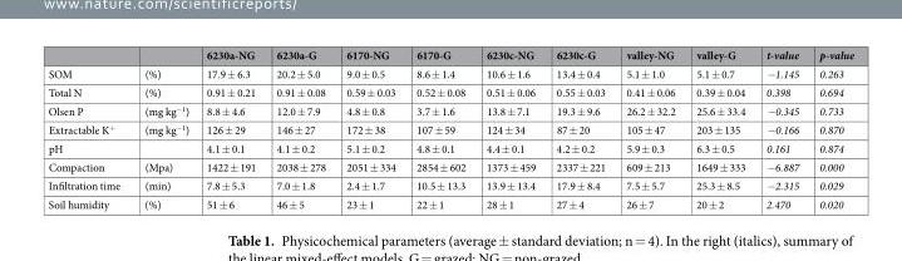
<table><thead><tr><td></td><td></td><td>6230a-NG</td><td>6230a-G</td><td>6170-NG</td><td>6170-G</td><td>6230c-NG</td><td>6230c-G</td><td>valley-NG</td><td>valley-G</td><td>t-value</td><td>p-value</td></tr></thead><tbody><tr><td>SOM</td><td>(%)</td><td>17.9 ± 6.3</td><td>20.2 ± 5.0</td><td>9.0 ± 0.5</td><td>8.6 ± 1.4</td><td>10.6 ± 1.6</td><td>13.4 ± 0.4</td><td>5.1 ± 1.0</td><td>5.1 ± 0.7</td><td>−1.145</td><td>0.263</td></tr><tr><td>Total N</td><td>(%)</td><td>0.91 ± 0.21</td><td>0.91 ± 0.08</td><td>0.59 ± 0.03</td><td>0.52 ± 0.08</td><td>0.51 ± 0.06</td><td>0.55 ± 0.03</td><td>0.41 ± 0.06</td><td>0.39 ± 0.04</td><td>0.398</td><td>0.694</td></tr><tr><td>Olsen P</td><td>(mg kg<sup>−1</sup>)</td><td>8.8 ± 4.6</td><td>12.0 ± 7.9</td><td>4.8 ± 0.8</td><td>3.7 ± 1.6</td><td>13.8 ± 7.1</td><td>19.3 ± 9.6</td><td>26.2 ± 32.2</td><td>25.6 ± 33.4</td><td>−0.345</td><td>0.733</td></tr><tr><td>Extractable K<sup>+</sup></td><td>(mg kg<sup>−1</sup>)</td><td>126 ± 29</td><td>146 ± 27</td><td>172 ± 38</td><td>107 ± 59</td><td>124 ± 34</td><td>87 ± 20</td><td>105 ± 47</td><td>203 ± 135</td><td>−0.166</td><td>0.870</td></tr><tr><td>pH</td><td></td><td>4.1 ± 0.1</td><td>4.1 ± 0.2</td><td>5.1 ± 0.2</td><td>4.8 ± 0.1</td><td>4.4 ± 0.1</td><td>4.2 ± 0.2</td><td>5.9 ± 0.3</td><td>6.3 ± 0.5</td><td>0.161</td><td>0.874</td></tr><tr><td>Compaction</td><td>(Mpa)</td><td>1422 ± 191</td><td>2038 ± 278</td><td>2051 ± 334</td><td>2854 ± 602</td><td>1373 ± 459</td><td>2337 ± 221</td><td>609 ± 213</td><td>1649 ± 333</td><td>−6.887</td><td>0.000</td></tr><tr><td>Infiltration time</td><td>(min)</td><td>7.8 ± 5.3</td><td>7.0 ± 1.8</td><td>2.4 ± 1.7</td><td>10.5 ± 13.3</td><td>13.9 ± 13.4</td><td>17.9 ± 8.4</td><td>7.5 ± 5.7</td><td>25.3 ± 8.5</td><td>−2.315</td><td>0.029</td></tr><tr><td>Soil humidity</td><td>(%)</td><td>51 ± 6</td><td>46 ± 5</td><td>23 ± 1</td><td>22 ± 1</td><td>28 ± 1</td><td>27 ± 4</td><td>26 ± 7</td><td>20 ± 2</td><td>2.470</td><td>0.020</td></tr></tbody></table>